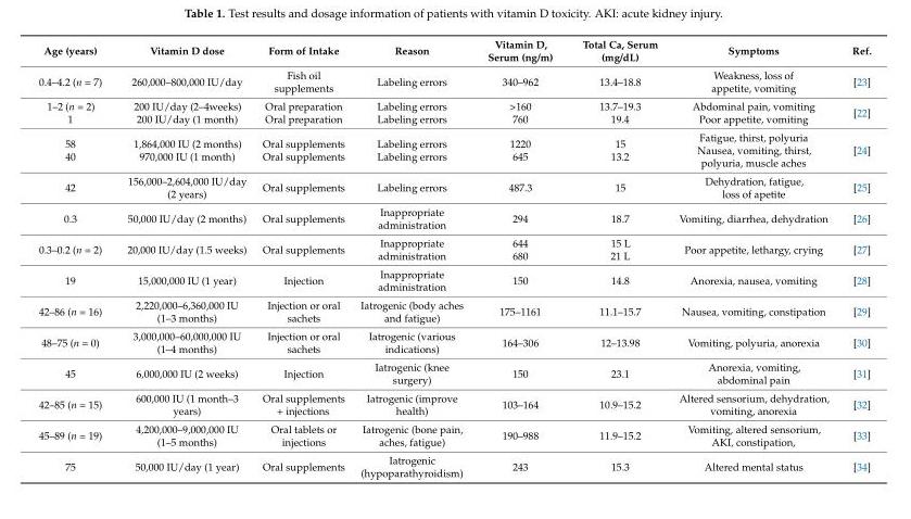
<table><thead><tr><td>Age (years)</td><td>Vitamin D dose</td><td>Form of Intake</td><td>Reason</td><td>Vitamin D, Serum (ng/m)</td><td>Total Ca, Serum (mg/dL)</td><td>Symptoms</td><td>Ref.</td></tr></thead><tbody><tr><td>0.4–4.2 (n = 7)</td><td>260,000–800,000 IU/day</td><td>Fish oil supplements</td><td>Labeling errors</td><td>340–962</td><td>13.4–18.8</td><td>Weakness, loss of appetite, vomiting</td><td>[23]</td></tr><tr><td>1–2 (n = 2) 1</td><td>200 IU/day (2–4weeks) 200 IU/day (1 month)</td><td>Oral preparation Oral preparation</td><td>Labeling errors Labeling errors</td><td>&gt;160 760</td><td>13.7–19.3 19.4</td><td>Abdominal pain, vomiting Poor appetite, vomiting</td><td>[22]</td></tr><tr><td>58 40</td><td>1,864,000 IU (2 months) 970,000 IU (1 month)</td><td>Oral supplements Oral supplements</td><td>Labeling errors Labeling errors</td><td>1220 645</td><td>15 13.2</td><td>Fatigue, thirst, polyuria Nausea, vomiting, thirst, polyuria, muscle aches</td><td>[24]</td></tr><tr><td>42</td><td>156,000–2,604,000 IU/day (2 years)</td><td>Oral supplements</td><td>Labeling errors</td><td>487.3</td><td>15</td><td>Dehydration, fatigue, loss of apetite</td><td>[25]</td></tr><tr><td>0.3</td><td>50,000 IU/day (2 months)</td><td>Oral supplements</td><td>Inappropriate administration</td><td>294</td><td>18.7</td><td>Vomiting, diarrhea, dehydration</td><td>[26]</td></tr><tr><td>0.3–0.2 (n = 2)</td><td>20,000 IU/day (1.5 weeks)</td><td>Oral supplements</td><td>Inappropriate administration</td><td>644 680</td><td>15 L 21 L</td><td>Poor appetite, lethargy, crying</td><td>[27]</td></tr><tr><td>19</td><td>15,000,000 IU (1 year)</td><td>Injection</td><td>Inappropriate administration</td><td>150</td><td>14.8</td><td>Anorexia, nausea, vomiting</td><td>[28]</td></tr><tr><td>42–86 (n = 16)</td><td>2,220,000–6,360,000 IU (1–3 months)</td><td>Injection or oral sachets</td><td>Iatrogenic (body aches and fatigue)</td><td>175–1161</td><td>11.1–15.7</td><td>Nausea, vomiting, constipation</td><td>[29]</td></tr><tr><td>48–75 (n = 0)</td><td>3,000,000–60,000,000 IU (1–4 months)</td><td>Injection or oral sachets</td><td>Iatrogenic (various indications)</td><td>164–306</td><td>12–13.98</td><td>Vomiting, polyuria, anorexia</td><td>[30]</td></tr><tr><td>45</td><td>6,000,000 IU (2 weeks)</td><td>Injection</td><td>Iatrogenic (knee surgery)</td><td>150</td><td>23.1</td><td>Anorexia, vomiting, abdominal pain</td><td>[31]</td></tr><tr><td>42–85 (n = 15)</td><td>600,000 IU (1 month–3 years)</td><td>Oral supplements + injections</td><td>Iatrogenic (improve health)</td><td>103–164</td><td>10.9–15.2</td><td>Altered sensorium, dehydration, vomiting, anorexia</td><td>[32]</td></tr><tr><td>45–89 (n = 19)</td><td>4,200,000–9,000,000 IU (1–5 months)</td><td>Oral tablets or injections</td><td>Iatrogenic (bone pain, aches, fatigue)</td><td>190–988</td><td>11.9–15.2</td><td>Vomiting, altered sensorium, AKI, constipation,</td><td>[33]</td></tr><tr><td>75</td><td>50,000 IU/day (1 year)</td><td>Oral supplements</td><td>Iatrogenic (hypoparathyroidism)</td><td>243</td><td>15.3</td><td>Altered mental status</td><td>[34]</td></tr></tbody></table>